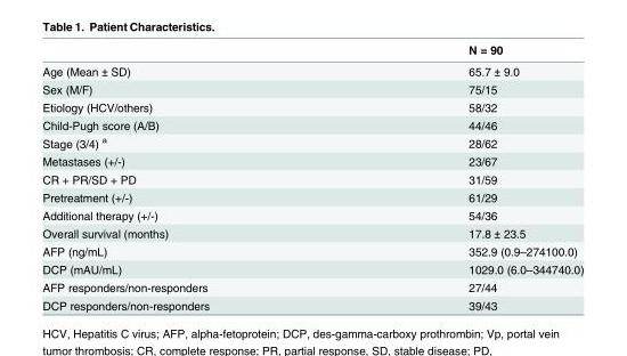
<table><thead><tr><td></td><td>N = 90</td></tr></thead><tbody><tr><td>Age (Mean ± SD)</td><td>65.7 ± 9.0</td></tr><tr><td>Sex (M/F)</td><td>75/15</td></tr><tr><td>Etiology (HCV/others)</td><td>58/32</td></tr><tr><td>Child-Pugh score (A/B)</td><td>44/46</td></tr><tr><td>Stage (3/4) <sup>a</sup></td><td>28/62</td></tr><tr><td>Metastases (+/-)</td><td>23/67</td></tr><tr><td>CR + PR/SD + PD</td><td>31/59</td></tr><tr><td>Pretreatment (+/-)</td><td>61/29</td></tr><tr><td>Additional therapy (+/-)</td><td>54/36</td></tr><tr><td>Overall survival (months)</td><td>17.8 ± 23.5</td></tr><tr><td>AFP (ng/mL)</td><td>352.9 (0.9–274100.0)</td></tr><tr><td>DCP (mAU/mL)</td><td>1029.0 (6.0–344740.0)</td></tr><tr><td>AFP responders/non-responders</td><td>27/44</td></tr><tr><td>DCP responders/non-responders</td><td>39/43</td></tr></tbody></table>